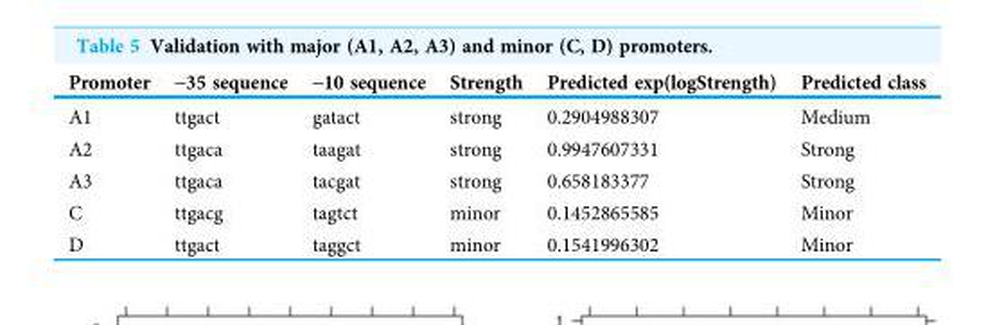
<table><thead><tr><td>Promoter</td><td>-35 sequence</td><td>-10 sequence</td><td>Strength</td><td>Predicted exp(logStrength)</td><td>Predicted class</td></tr></thead><tbody><tr><td>A1</td><td>ttgact</td><td>gatact</td><td>strong</td><td>0.2904988307</td><td>Medium</td></tr><tr><td>A2</td><td>ttgaca</td><td>taagat</td><td>strong</td><td>0.9947607331</td><td>Strong</td></tr><tr><td>A3</td><td>ttgaca</td><td>tacgat</td><td>strong</td><td>0.658183377</td><td>Strong</td></tr><tr><td>C</td><td>ttgacg</td><td>tagtct</td><td>minor</td><td>0.1452865585</td><td>Minor</td></tr><tr><td>D</td><td>ttgact</td><td>taggct</td><td>minor</td><td>0.1541996302</td><td>Minor</td></tr></tbody></table>